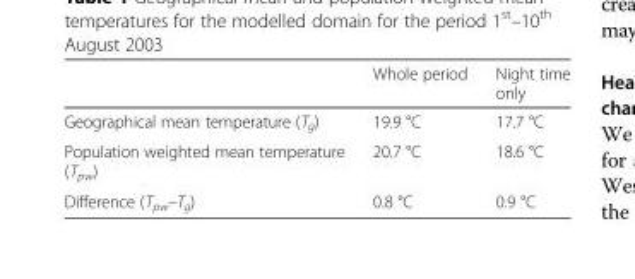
<table><thead><tr><td></td><td>Whole period</td><td>Night time only</td></tr></thead><tbody><tr><td>Geographical mean temperature (T<sub>g</sub>)</td><td>19.9 °C</td><td>17.7 °C</td></tr><tr><td>Population weighted mean temperature (T<sub>pw</sub>)</td><td>20.7 °C</td><td>18.6 °C</td></tr><tr><td>Difference (T<sub>pw</sub>–T<sub>g</sub>)</td><td>0.8 °C</td><td>0.9 °C</td></tr></tbody></table>